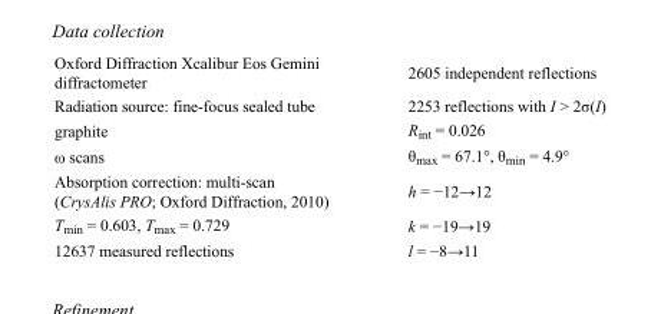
<table><tbody><tr><td>Oxford Diffraction Xcalibur Eos Gemini diffractometer</td><td>2605 independent reflections</td></tr><tr><td>Radiation source: fine-focus sealed tube</td><td>2253 reflections with I &gt; 2σ(I)</td></tr><tr><td>graphite</td><td>R<sub>int</sub> = 0.026</td></tr><tr><td>ω scans</td><td>θ<sub>max</sub> = 67.1°, θ<sub>min</sub> = 4.9°</td></tr><tr><td>Absorption correction: multi-scan (CrysAlis PRO; Oxford Diffraction, 2010)</td><td>h = −12→12</td></tr><tr><td>T<sub>min</sub> = 0.603, T<sub>max</sub> = 0.729</td><td>k = −19→19</td></tr><tr><td>12637 measured reflections</td><td>l = −8→11</td></tr></tbody></table>